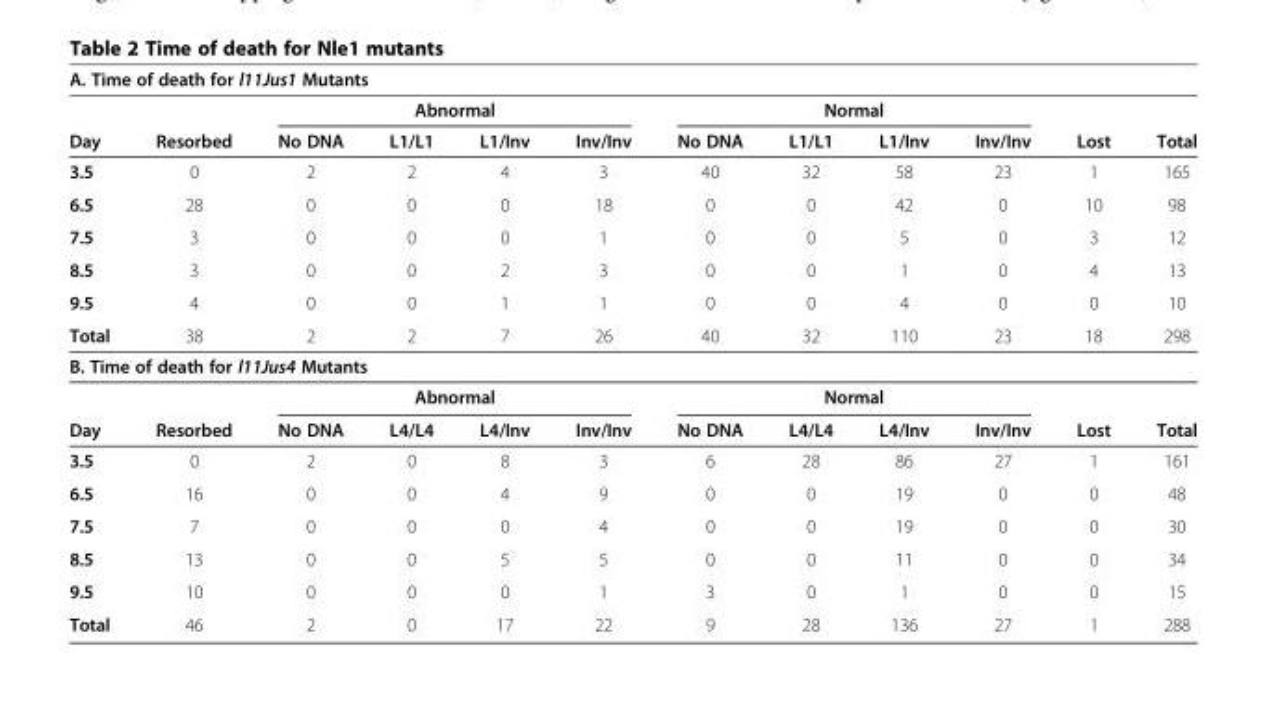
<table><thead><tr><td colspan="12">A. Time of death for l11Jus1 Mutants</td></tr><tr><td rowspan="2">Day</td><td rowspan="2">Resorbed</td><td colspan="4">Abnormal</td><td colspan="4">Normal</td><td rowspan="2">Lost</td><td rowspan="2">Total</td></tr><tr><td>No DNA</td><td>L1/L1</td><td>L1/Inv</td><td>Inv/Inv</td><td>No DNA</td><td>L1/L1</td><td>L1/Inv</td><td>Inv/Inv</td></tr></thead><tbody><tr><td>3.5</td><td>0</td><td>2</td><td>2</td><td>4</td><td>3</td><td>40</td><td>32</td><td>58</td><td>23</td><td>1</td><td>165</td></tr><tr><td>6.5</td><td>28</td><td>0</td><td>0</td><td>0</td><td>18</td><td>0</td><td>0</td><td>42</td><td>0</td><td>10</td><td>98</td></tr><tr><td>7.5</td><td>3</td><td>0</td><td>0</td><td>0</td><td>1</td><td>0</td><td>0</td><td>5</td><td>0</td><td>3</td><td>12</td></tr><tr><td>8.5</td><td>3</td><td>0</td><td>0</td><td>2</td><td>3</td><td>0</td><td>0</td><td>1</td><td>0</td><td>4</td><td>13</td></tr><tr><td>9.5</td><td>4</td><td>0</td><td>0</td><td>1</td><td>1</td><td>0</td><td>0</td><td>4</td><td>0</td><td>0</td><td>10</td></tr><tr><td>Total</td><td>38</td><td>2</td><td>2</td><td>7</td><td>26</td><td>40</td><td>32</td><td>110</td><td>23</td><td>18</td><td>298</td></tr><tr><td colspan="12">B. Time of death for l11Jus4 Mutants</td></tr><tr><td></td><td></td><td colspan="4">Abnormal</td><td colspan="4">Normal</td><td colspan="2"></td></tr><tr><td>Day</td><td>Resorbed</td><td>No DNA</td><td>L4/L4</td><td>L4/Inv</td><td>Inv/Inv</td><td>No DNA</td><td>L4/L4</td><td>L4/Inv</td><td>Inv/Inv</td><td>Lost</td><td>Total</td></tr><tr><td>3.5</td><td>0</td><td>2</td><td>0</td><td>8</td><td>3</td><td>6</td><td>28</td><td>86</td><td>27</td><td>1</td><td>161</td></tr><tr><td>6.5</td><td>16</td><td>0</td><td>0</td><td>4</td><td>9</td><td>0</td><td>0</td><td>19</td><td>0</td><td>0</td><td>48</td></tr><tr><td>7.5</td><td>7</td><td>0</td><td>0</td><td>0</td><td>4</td><td>0</td><td>0</td><td>19</td><td>0</td><td>0</td><td>30</td></tr><tr><td>8.5</td><td>13</td><td>0</td><td>0</td><td>5</td><td>5</td><td>0</td><td>0</td><td>11</td><td>0</td><td>0</td><td>34</td></tr><tr><td>9.5</td><td>10</td><td>0</td><td>0</td><td>0</td><td>1</td><td>3</td><td>0</td><td>1</td><td>0</td><td>0</td><td>15</td></tr><tr><td>Total</td><td>46</td><td>2</td><td>0</td><td>17</td><td>22</td><td>9</td><td>28</td><td>136</td><td>27</td><td>1</td><td>288</td></tr></tbody></table>